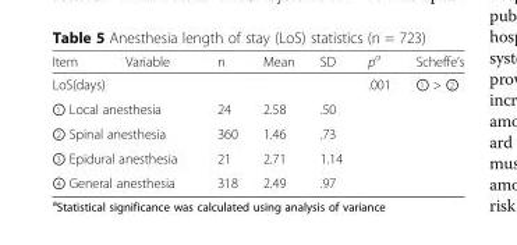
<table><thead><tr><td>Item</td><td>Variable</td><td>n</td><td>Mean</td><td>SD</td><td>p<sup>a</sup></td><td>Scheffe’s</td></tr></thead><tbody><tr><td colspan="2">LoS(days)</td><td></td><td></td><td></td><td>.001</td><td>① &gt; ②</td></tr><tr><td colspan="2">① Local anesthesia</td><td>24</td><td>2.58</td><td>.50</td><td></td><td></td></tr><tr><td colspan="2">② Spinal anesthesia</td><td>360</td><td>1.46</td><td>.73</td><td></td><td></td></tr><tr><td colspan="2">③ Epidural anesthesia</td><td>21</td><td>2.71</td><td>1.14</td><td></td><td></td></tr><tr><td colspan="2">④ General anesthesia</td><td>318</td><td>2.49</td><td>.97</td><td></td><td></td></tr></tbody></table>